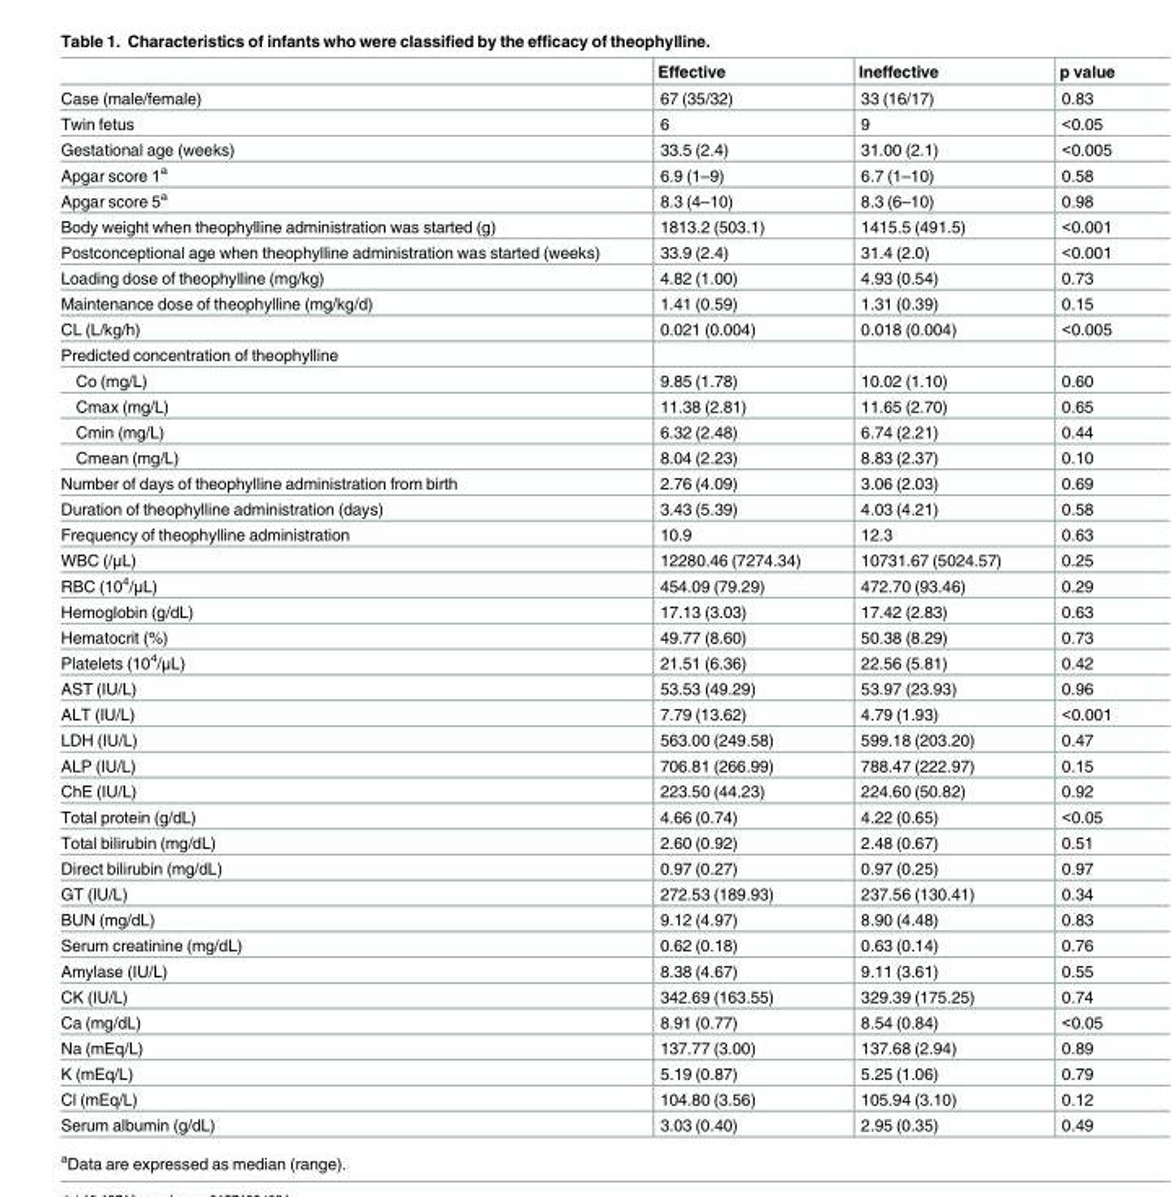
<table><thead><tr><td></td><td>Effective</td><td>Ineffective</td><td>p value</td></tr></thead><tbody><tr><td>Case (male/female)</td><td>67 (35/32)</td><td>33 (16/17)</td><td>0.83</td></tr><tr><td>Twin fetus</td><td>6</td><td>9</td><td>&lt;0.05</td></tr><tr><td>Gestational age (weeks)</td><td>33.5 (2.4)</td><td>31.00 (2.1)</td><td>&lt;0.005</td></tr><tr><td>Apgar score 1<sup>a</sup></td><td>6.9 (1–9)</td><td>6.7 (1–10)</td><td>0.58</td></tr><tr><td>Apgar score 5<sup>a</sup></td><td>8.3 (4–10)</td><td>8.3 (6–10)</td><td>0.98</td></tr><tr><td>Body weight when theophylline administration was started (g)</td><td>1813.2 (503.1)</td><td>1415.5 (491.5)</td><td>&lt;0.001</td></tr><tr><td>Postconceptional age when theophylline administration was started (weeks)</td><td>33.9 (2.4)</td><td>31.4 (2.0)</td><td>&lt;0.001</td></tr><tr><td>Loading dose of theophylline (mg/kg)</td><td>4.82 (1.00)</td><td>4.93 (0.54)</td><td>0.73</td></tr><tr><td>Maintenance dose of theophylline (mg/kg/d)</td><td>1.41 (0.59)</td><td>1.31 (0.39)</td><td>0.15</td></tr><tr><td>CL (L/kg/h)</td><td>0.021 (0.004)</td><td>0.018 (0.004)</td><td>&lt;0.005</td></tr><tr><td colspan="4">Predicted concentration of theophylline</td></tr><tr><td>Co (mg/L)</td><td>9.85 (1.78)</td><td>10.02 (1.10)</td><td>0.60</td></tr><tr><td>Cmax (mg/L)</td><td>11.38 (2.81)</td><td>11.65 (2.70)</td><td>0.65</td></tr><tr><td>Cmin (mg/L)</td><td>6.32 (2.48)</td><td>6.74 (2.21)</td><td>0.44</td></tr><tr><td>Cmean (mg/L)</td><td>8.04 (2.23)</td><td>8.83 (2.37)</td><td>0.10</td></tr><tr><td>Number of days of theophylline administration from birth</td><td>2.76 (4.09)</td><td>3.06 (2.03)</td><td>0.69</td></tr><tr><td>Duration of theophylline administration (days)</td><td>3.43 (5.39)</td><td>4.03 (4.21)</td><td>0.58</td></tr><tr><td>Frequency of theophylline administration</td><td>10.9</td><td>12.3</td><td>0.63</td></tr><tr><td>WBC (/μL)</td><td>12280.46 (7274.34)</td><td>10731.67 (5024.57)</td><td>0.25</td></tr><tr><td>RBC (10<sup>4</sup>/μL)</td><td>454.09 (79.29)</td><td>472.70 (93.46)</td><td>0.29</td></tr><tr><td>Hemoglobin (g/dL)</td><td>17.13 (3.03)</td><td>17.42 (2.83)</td><td>0.63</td></tr><tr><td>Hematocrit (%)</td><td>49.77 (8.60)</td><td>50.38 (8.29)</td><td>0.73</td></tr><tr><td>Platelets (10<sup>4</sup>/μL)</td><td>21.51 (6.36)</td><td>22.56 (5.81)</td><td>0.42</td></tr><tr><td>AST (IU/L)</td><td>53.53 (49.29)</td><td>53.97 (23.93)</td><td>0.96</td></tr><tr><td>ALT (IU/L)</td><td>7.79 (13.62)</td><td>4.79 (1.93)</td><td>&lt;0.001</td></tr><tr><td>LDH (IU/L)</td><td>563.00 (249.58)</td><td>599.18 (203.20)</td><td>0.47</td></tr><tr><td>ALP (IU/L)</td><td>706.81 (266.99)</td><td>788.47 (222.97)</td><td>0.15</td></tr><tr><td>ChE (IU/L)</td><td>223.50 (44.23)</td><td>224.60 (50.82)</td><td>0.92</td></tr><tr><td>Total protein (g/dL)</td><td>4.66 (0.74)</td><td>4.22 (0.65)</td><td>&lt;0.05</td></tr><tr><td>Total bilirubin (mg/dL)</td><td>2.60 (0.92)</td><td>2.48 (0.67)</td><td>0.51</td></tr><tr><td>Direct bilirubin (mg/dL)</td><td>0.97 (0.27)</td><td>0.97 (0.25)</td><td>0.97</td></tr><tr><td>GT (IU/L)</td><td>272.53 (189.93)</td><td>237.56 (130.41)</td><td>0.34</td></tr><tr><td>BUN (mg/dL)</td><td>9.12 (4.97)</td><td>8.90 (4.48)</td><td>0.83</td></tr><tr><td>Serum creatinine (mg/dL)</td><td>0.62 (0.18)</td><td>0.63 (0.14)</td><td>0.76</td></tr><tr><td>Amylase (IU/L)</td><td>8.38 (4.67)</td><td>9.11 (3.61)</td><td>0.55</td></tr><tr><td>CK (IU/L)</td><td>342.69 (163.55)</td><td>329.39 (175.25)</td><td>0.74</td></tr><tr><td>Ca (mg/dL)</td><td>8.91 (0.77)</td><td>8.54 (0.84)</td><td>&lt;0.05</td></tr><tr><td>Na (mEq/L)</td><td>137.77 (3.00)</td><td>137.68 (2.94)</td><td>0.89</td></tr><tr><td>K (mEq/L)</td><td>5.19 (0.87)</td><td>5.25 (1.06)</td><td>0.79</td></tr><tr><td>Cl (mEq/L)</td><td>104.80 (3.56)</td><td>105.94 (3.10)</td><td>0.12</td></tr><tr><td>Serum albumin (g/dL)</td><td>3.03 (0.40)</td><td>2.95 (0.35)</td><td>0.49</td></tr></tbody></table>